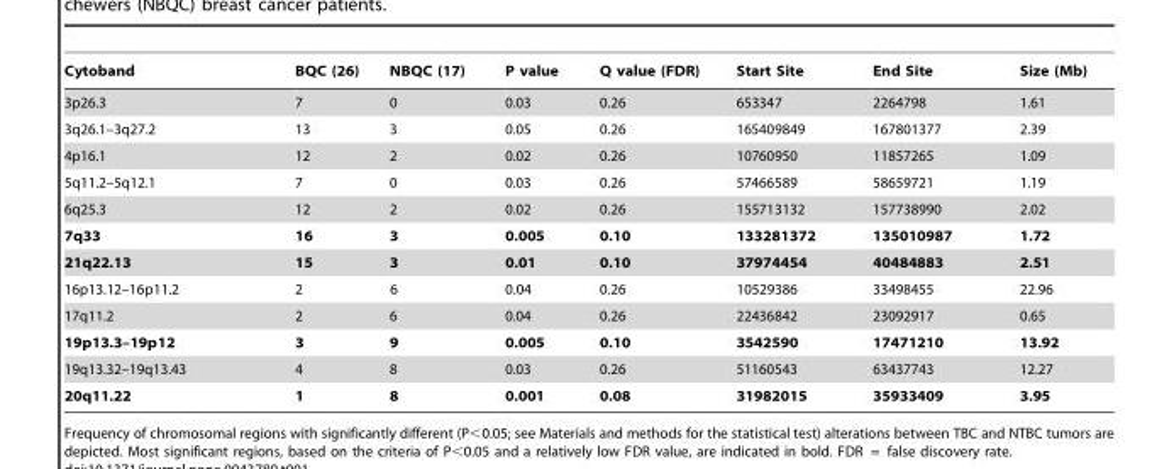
<table><thead><tr><td>Cytoband</td><td>BQC (26)</td><td>NBQC (17)</td><td>P value</td><td>Q value (FDR)</td><td>Start Site</td><td>End Site</td><td>Size (Mb)</td></tr></thead><tbody><tr><td>3p26.3</td><td>7</td><td>0</td><td>0.03</td><td>0.26</td><td>653347</td><td>2264798</td><td>1.61</td></tr><tr><td>3q26.1–3q27.2</td><td>13</td><td>3</td><td>0.05</td><td>0.26</td><td>165409849</td><td>167801377</td><td>2.39</td></tr><tr><td>4p16.1</td><td>12</td><td>2</td><td>0.02</td><td>0.26</td><td>10760950</td><td>11857265</td><td>1.09</td></tr><tr><td>5q11.2–5q12.1</td><td>7</td><td>0</td><td>0.03</td><td>0.26</td><td>57466589</td><td>58659721</td><td>1.19</td></tr><tr><td>6q25.3</td><td>12</td><td>2</td><td>0.02</td><td>0.26</td><td>155713132</td><td>157738990</td><td>2.02</td></tr><tr><td>7q33</td><td>16</td><td>3</td><td>0.005</td><td>0.10</td><td>133281372</td><td>135010987</td><td>1.72</td></tr><tr><td>21q22.13</td><td>15</td><td>3</td><td>0.01</td><td>0.10</td><td>37974454</td><td>40484883</td><td>2.51</td></tr><tr><td>16p13.12–16p11.2</td><td>2</td><td>6</td><td>0.04</td><td>0.26</td><td>10529386</td><td>33498455</td><td>22.96</td></tr><tr><td>17q11.2</td><td>2</td><td>6</td><td>0.04</td><td>0.26</td><td>22436842</td><td>23092917</td><td>0.65</td></tr><tr><td>19p13.3–19p12</td><td>3</td><td>9</td><td>0.005</td><td>0.10</td><td>3542590</td><td>17471210</td><td>13.92</td></tr><tr><td>19q13.32–19q13.43</td><td>4</td><td>8</td><td>0.03</td><td>0.26</td><td>51160543</td><td>63437743</td><td>12.27</td></tr><tr><td>20q11.22</td><td>1</td><td>8</td><td>0.001</td><td>0.08</td><td>31982015</td><td>35933409</td><td>3.95</td></tr></tbody></table>